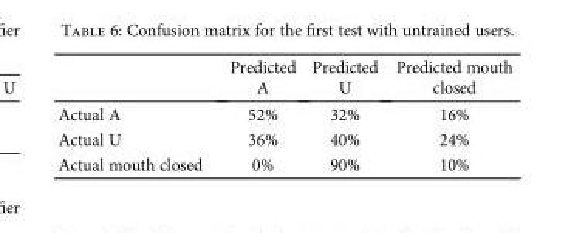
<table><thead><tr><td></td><td>Predicted A</td><td>Predicted U</td><td>Predicted mouth closed</td></tr></thead><tbody><tr><td>Actual A</td><td>52%</td><td>32%</td><td>16%</td></tr><tr><td>Actual U</td><td>36%</td><td>40%</td><td>24%</td></tr><tr><td>Actual mouth closed</td><td>0%</td><td>90%</td><td>10%</td></tr></tbody></table>